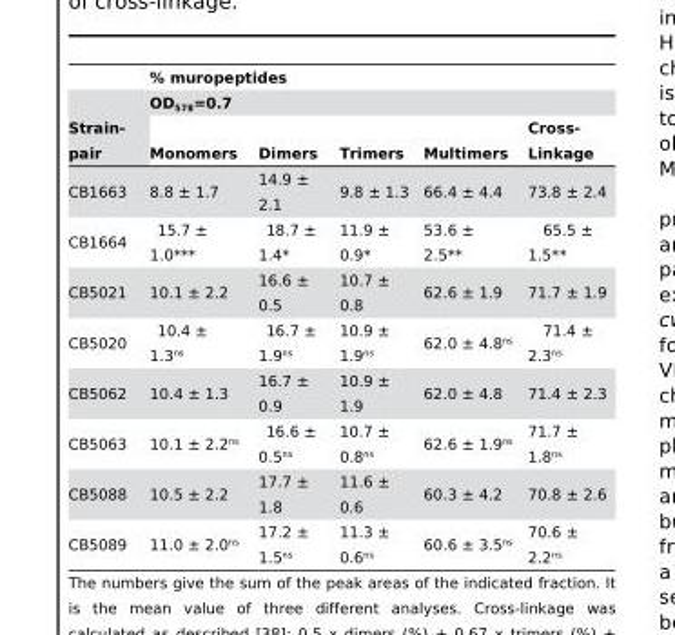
<table><thead><tr><td rowspan="3">Strain- pair</td><td rowspan="2" colspan="5">% muropeptides OD<sub>578</sub>=0.7</td></tr><tr></tr><tr><td>Monomers</td><td>Dimers</td><td>Trimers</td><td>Multimers</td><td>Cross- Linkage</td></tr></thead><tbody><tr><td>CB1663</td><td>8.8 ± 1.7</td><td>14.9 ± 2.1</td><td>9.8 ± 1.3</td><td>66.4 ± 4.4</td><td>73.8 ± 2.4</td></tr><tr><td>CB1664</td><td>15.7 ± 1.0***</td><td>18.7 ± 1.4*</td><td>11.9 ± 0.9*</td><td>53.6 ± 2.5**</td><td>65.5 ± 1.5**</td></tr><tr><td>CB5021</td><td>10.1 ± 2.2</td><td>16.6 ± 0.5</td><td>10.7 ± 0.8</td><td>62.6 ± 1.9</td><td>71.7 ± 1.9</td></tr><tr><td>CB5020</td><td>10.4 ± 1.3<sup>ns</sup></td><td>16.7 ± 1.9<sup>ns</sup></td><td>10.9 ± 1.9<sup>ns</sup></td><td>62.0 ± 4.8<sup>ns</sup></td><td>71.4 ± 2.3<sup>ns</sup></td></tr><tr><td>CB5062</td><td>10.4 ± 1.3</td><td>16.7 ± 0.9</td><td>10.9 ± 1.9</td><td>62.0 ± 4.8</td><td>71.4 ± 2.3</td></tr><tr><td>CB5063</td><td>10.1 ± 2.2<sup>ns</sup></td><td>16.6 ± 0.5<sup>ns</sup></td><td>10.7 ± 0.8<sup>ns</sup></td><td>62.6 ± 1.9<sup>ns</sup></td><td>71.7 ± 1.8<sup>ns</sup></td></tr><tr><td>CB5088</td><td>10.5 ± 2.2</td><td>17.7 ± 1.8</td><td>11.6 ± 0.6</td><td>60.3 ± 4.2</td><td>70.8 ± 2.6</td></tr><tr><td>CB5089</td><td>11.0 ± 2.0<sup>ns</sup></td><td>17.2 ± 1.5<sup>ns</sup></td><td>11.3 ± 0.6<sup>ns</sup></td><td>60.6 ± 3.5<sup>ns</sup></td><td>70.6 ± 2.2<sup>ns</sup></td></tr></tbody></table>